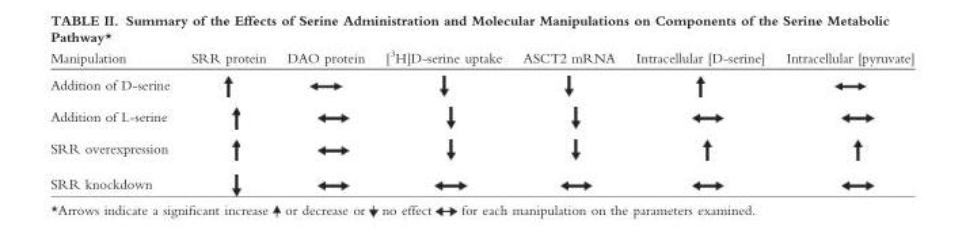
<table><thead><tr><td>Manipulation</td><td>SRR protein</td><td>DAO protein</td><td>[<sup>3</sup>H]D-serine uptake</td><td>ASCT2 mRNA</td><td>Intracellular [D-serine]</td><td>Intracellular [pyruvate]</td></tr></thead><tbody><tr><td colspan="7">Addition of D-serine</td></tr><tr><td colspan="7">Addition of L-serine</td></tr><tr><td colspan="7">SRR overexpression</td></tr><tr><td>SRR knockdown</td><td></td><td></td><td></td><td></td><td></td><td></td></tr></tbody></table>